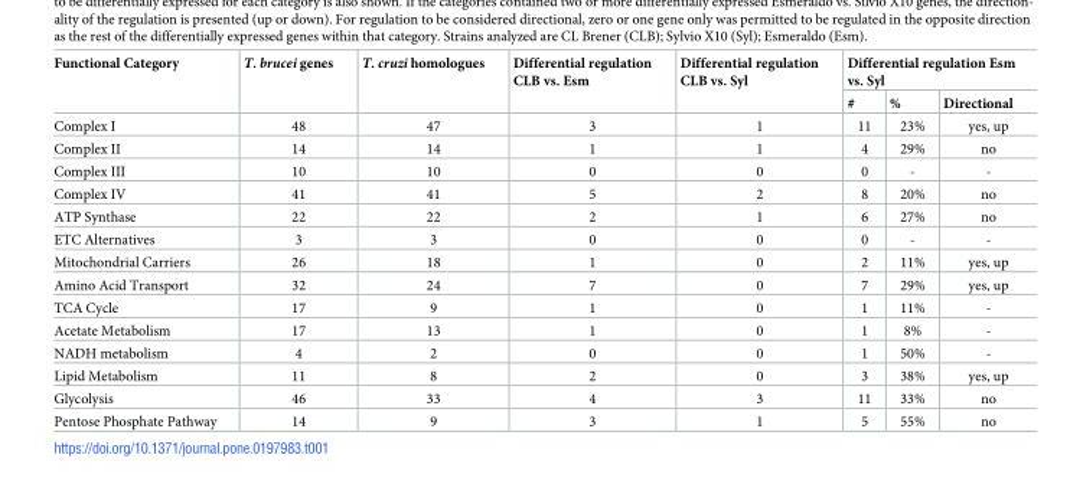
<table><thead><tr><td rowspan="2">Functional Category</td><td rowspan="2">T. brucei genes</td><td rowspan="2">T. cruzi homologues</td><td rowspan="2">Differential regulation CLB vs. Esm</td><td rowspan="2">Differential regulation CLB vs. Syl</td><td colspan="3">Differential regulation Esm vs. Syl</td></tr><tr><td>#</td><td>%</td><td>Directional</td></tr></thead><tbody><tr><td>Complex I</td><td>48</td><td>47</td><td>3</td><td>1</td><td>11</td><td>23%</td><td>yes, up</td></tr><tr><td>Complex II</td><td>14</td><td>14</td><td>1</td><td>1</td><td>4</td><td>29%</td><td>no</td></tr><tr><td>Complex III</td><td>10</td><td>10</td><td>0</td><td>0</td><td>0</td><td>-</td><td>-</td></tr><tr><td>Complex IV</td><td>41</td><td>41</td><td>5</td><td>2</td><td>8</td><td>20%</td><td>no</td></tr><tr><td>ATP Synthase</td><td>22</td><td>22</td><td>2</td><td>1</td><td>6</td><td>27%</td><td>no</td></tr><tr><td>ETC Alternatives</td><td>3</td><td>3</td><td>0</td><td>0</td><td>0</td><td>-</td><td>-</td></tr><tr><td>Mitochondrial Carriers</td><td>26</td><td>18</td><td>1</td><td>0</td><td>2</td><td>11%</td><td>yes, up</td></tr><tr><td>Amino Acid Transport</td><td>32</td><td>24</td><td>7</td><td>0</td><td>7</td><td>29%</td><td>yes, up</td></tr><tr><td>TCA Cycle</td><td>17</td><td>9</td><td>1</td><td>0</td><td>1</td><td>11%</td><td>-</td></tr><tr><td>Acetate Metabolism</td><td>17</td><td>13</td><td>1</td><td>0</td><td>1</td><td>8%</td><td>-</td></tr><tr><td>NADH metabolism</td><td>4</td><td>2</td><td>0</td><td>0</td><td>1</td><td>50%</td><td>-</td></tr><tr><td>Lipid Metabolism</td><td>11</td><td>8</td><td>2</td><td>0</td><td>3</td><td>38%</td><td>yes, up</td></tr><tr><td>Glycolysis</td><td>46</td><td>33</td><td>4</td><td>3</td><td>11</td><td>33%</td><td>no</td></tr><tr><td>Pentose Phosphate Pathway</td><td>14</td><td>9</td><td>3</td><td>1</td><td>5</td><td>55%</td><td>no</td></tr></tbody></table>